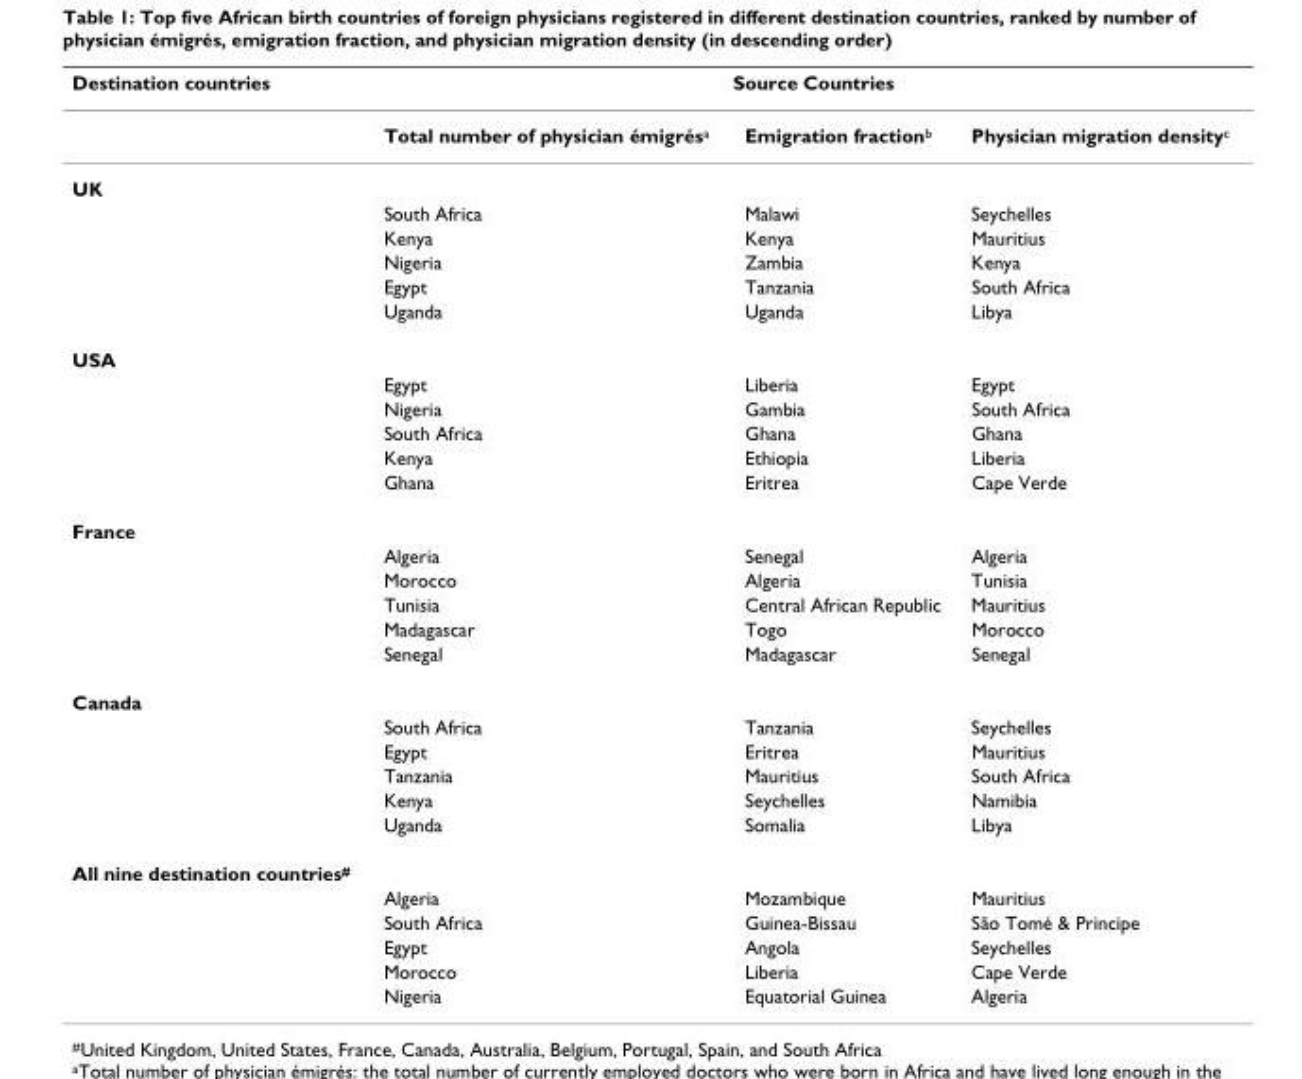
<table><thead><tr><td rowspan="2">Destination countries</td><td colspan="3">Source Countries</td></tr><tr><td>Total number of physician émigrés<sup>a</sup></td><td>Emigration fraction<sup>b</sup></td><td>Physician migration density<sup>c</sup></td></tr></thead><tbody><tr><td colspan="4">UK</td></tr><tr><td></td><td>South Africa</td><td>Malawi</td><td>Seychelles</td></tr><tr><td></td><td>Kenya</td><td>Kenya</td><td>Mauritius</td></tr><tr><td></td><td>Nigeria</td><td>Zambia</td><td>Kenya</td></tr><tr><td></td><td>Egypt</td><td>Tanzania</td><td>South Africa</td></tr><tr><td></td><td>Uganda</td><td>Uganda</td><td>Libya</td></tr><tr><td colspan="4">USA</td></tr><tr><td></td><td>Egypt</td><td>Liberia</td><td>Egypt</td></tr><tr><td></td><td>Nigeria</td><td>Gambia</td><td>South Africa</td></tr><tr><td></td><td>South Africa</td><td>Ghana</td><td>Ghana</td></tr><tr><td></td><td>Kenya</td><td>Ethiopia</td><td>Liberia</td></tr><tr><td></td><td>Ghana</td><td>Eritrea</td><td>Cape Verde</td></tr><tr><td colspan="4">France</td></tr><tr><td></td><td>Algeria</td><td>Senegal</td><td>Algeria</td></tr><tr><td></td><td>Morocco</td><td>Algeria</td><td>Tunisia</td></tr><tr><td></td><td>Tunisia</td><td>Central African Republic</td><td>Mauritius</td></tr><tr><td></td><td>Madagascar</td><td>Togo</td><td>Morocco</td></tr><tr><td></td><td>Senegal</td><td>Madagascar</td><td>Senegal</td></tr><tr><td colspan="4">Canada</td></tr><tr><td></td><td>South Africa</td><td>Tanzania</td><td>Seychelles</td></tr><tr><td></td><td>Egypt</td><td>Eritrea</td><td>Mauritius</td></tr><tr><td></td><td>Tanzania</td><td>Mauritius</td><td>South Africa</td></tr><tr><td></td><td>Kenya</td><td>Seychelles</td><td>Namibia</td></tr><tr><td></td><td>Uganda</td><td>Somalia</td><td>Libya</td></tr><tr><td colspan="4">All nine destination countries<sup>#</sup></td></tr><tr><td></td><td>Algeria</td><td>Mozambique</td><td>Mauritius</td></tr><tr><td></td><td>South Africa</td><td>Guinea-Bissau</td><td>São Tomé &amp; Principe</td></tr><tr><td></td><td>Egypt</td><td>Angola</td><td>Seychelles</td></tr><tr><td></td><td>Morocco</td><td>Liberia</td><td>Cape Verde</td></tr><tr><td></td><td>Nigeria</td><td>Equatorial Guinea</td><td>Algeria</td></tr></tbody></table>